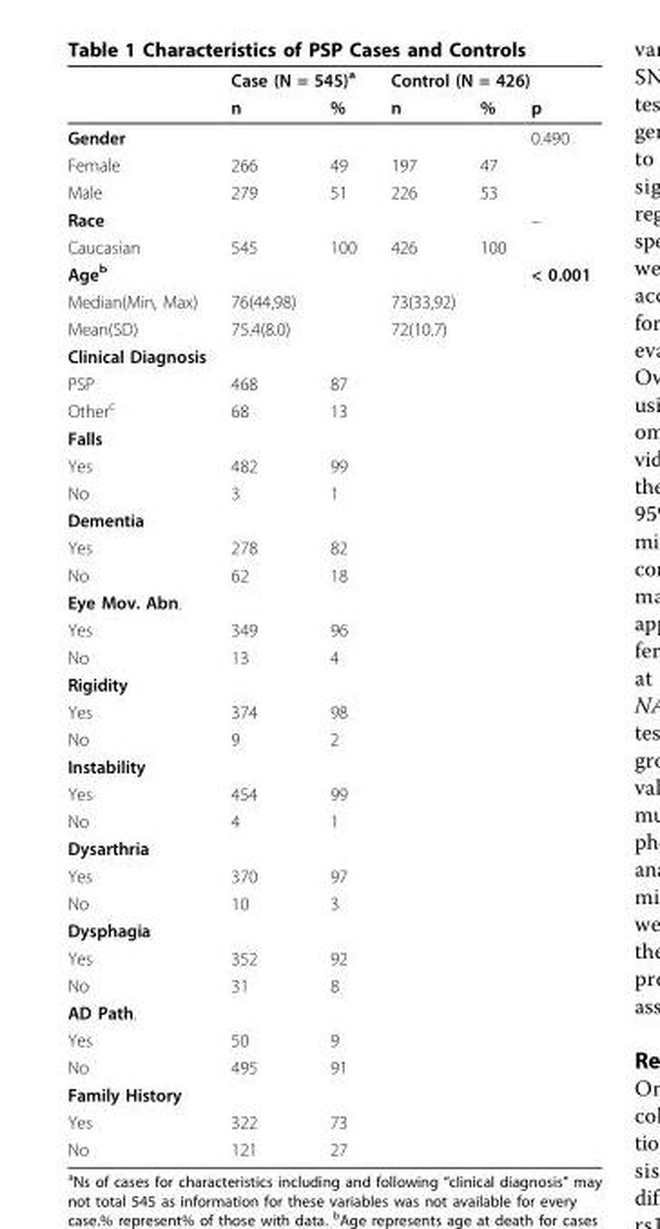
<table><thead><tr><td rowspan="2"></td><td colspan="2">Case (N = 545)<sup>a</sup></td><td colspan="3">Control (N = 426)</td></tr><tr><td>n</td><td>%</td><td>n</td><td>%</td><td>p</td></tr></thead><tbody><tr><td>Gender</td><td></td><td></td><td></td><td></td><td>0.490</td></tr><tr><td>Female</td><td>266</td><td>49</td><td>197</td><td>47</td><td></td></tr><tr><td>Male</td><td>279</td><td>51</td><td>226</td><td>53</td><td></td></tr><tr><td>Race</td><td></td><td></td><td></td><td></td><td>–</td></tr><tr><td>Caucasian</td><td>545</td><td>100</td><td>426</td><td>100</td><td></td></tr><tr><td>Age<sup>b</sup></td><td></td><td></td><td></td><td></td><td>&lt; 0.001</td></tr><tr><td>Median(Min, Max)</td><td>76(44,98)</td><td></td><td>73(33,92)</td><td></td><td></td></tr><tr><td>Mean(SD)</td><td>75.4(8.0)</td><td></td><td>72(10.7)</td><td></td><td></td></tr><tr><td colspan="6">Clinical Diagnosis</td></tr><tr><td>PSP</td><td>468</td><td>87</td><td></td><td></td><td></td></tr><tr><td>Other<sup>c</sup></td><td>68</td><td>13</td><td></td><td></td><td></td></tr><tr><td colspan="6">Falls</td></tr><tr><td>Yes</td><td>482</td><td>99</td><td></td><td></td><td></td></tr><tr><td>No</td><td>3</td><td>1</td><td></td><td></td><td></td></tr><tr><td colspan="6">Dementia</td></tr><tr><td>Yes</td><td>278</td><td>82</td><td></td><td></td><td></td></tr><tr><td>No</td><td>62</td><td>18</td><td></td><td></td><td></td></tr><tr><td colspan="6">Eye Mov. Abn.</td></tr><tr><td>Yes</td><td>349</td><td>96</td><td></td><td></td><td></td></tr><tr><td>No</td><td>13</td><td>4</td><td></td><td></td><td></td></tr><tr><td colspan="6">Rigidity</td></tr><tr><td>Yes</td><td>374</td><td>98</td><td></td><td></td><td></td></tr><tr><td>No</td><td>9</td><td>2</td><td></td><td></td><td></td></tr><tr><td colspan="6">Instability</td></tr><tr><td>Yes</td><td>454</td><td>99</td><td></td><td></td><td></td></tr><tr><td>No</td><td>4</td><td>1</td><td></td><td></td><td></td></tr><tr><td colspan="6">Dysarthria</td></tr><tr><td>Yes</td><td>370</td><td>97</td><td></td><td></td><td></td></tr><tr><td>No</td><td>10</td><td>3</td><td></td><td></td><td></td></tr><tr><td colspan="6">Dysphagia</td></tr><tr><td>Yes</td><td>352</td><td>92</td><td></td><td></td><td></td></tr><tr><td>No</td><td>31</td><td>8</td><td></td><td></td><td></td></tr><tr><td colspan="6">AD Path.</td></tr><tr><td>Yes</td><td>50</td><td>9</td><td></td><td></td><td></td></tr><tr><td>No</td><td>495</td><td>91</td><td></td><td></td><td></td></tr><tr><td colspan="6">Family History</td></tr><tr><td>Yes</td><td>322</td><td>73</td><td></td><td></td><td></td></tr><tr><td>No</td><td>121</td><td>27</td><td></td><td></td><td></td></tr></tbody></table>